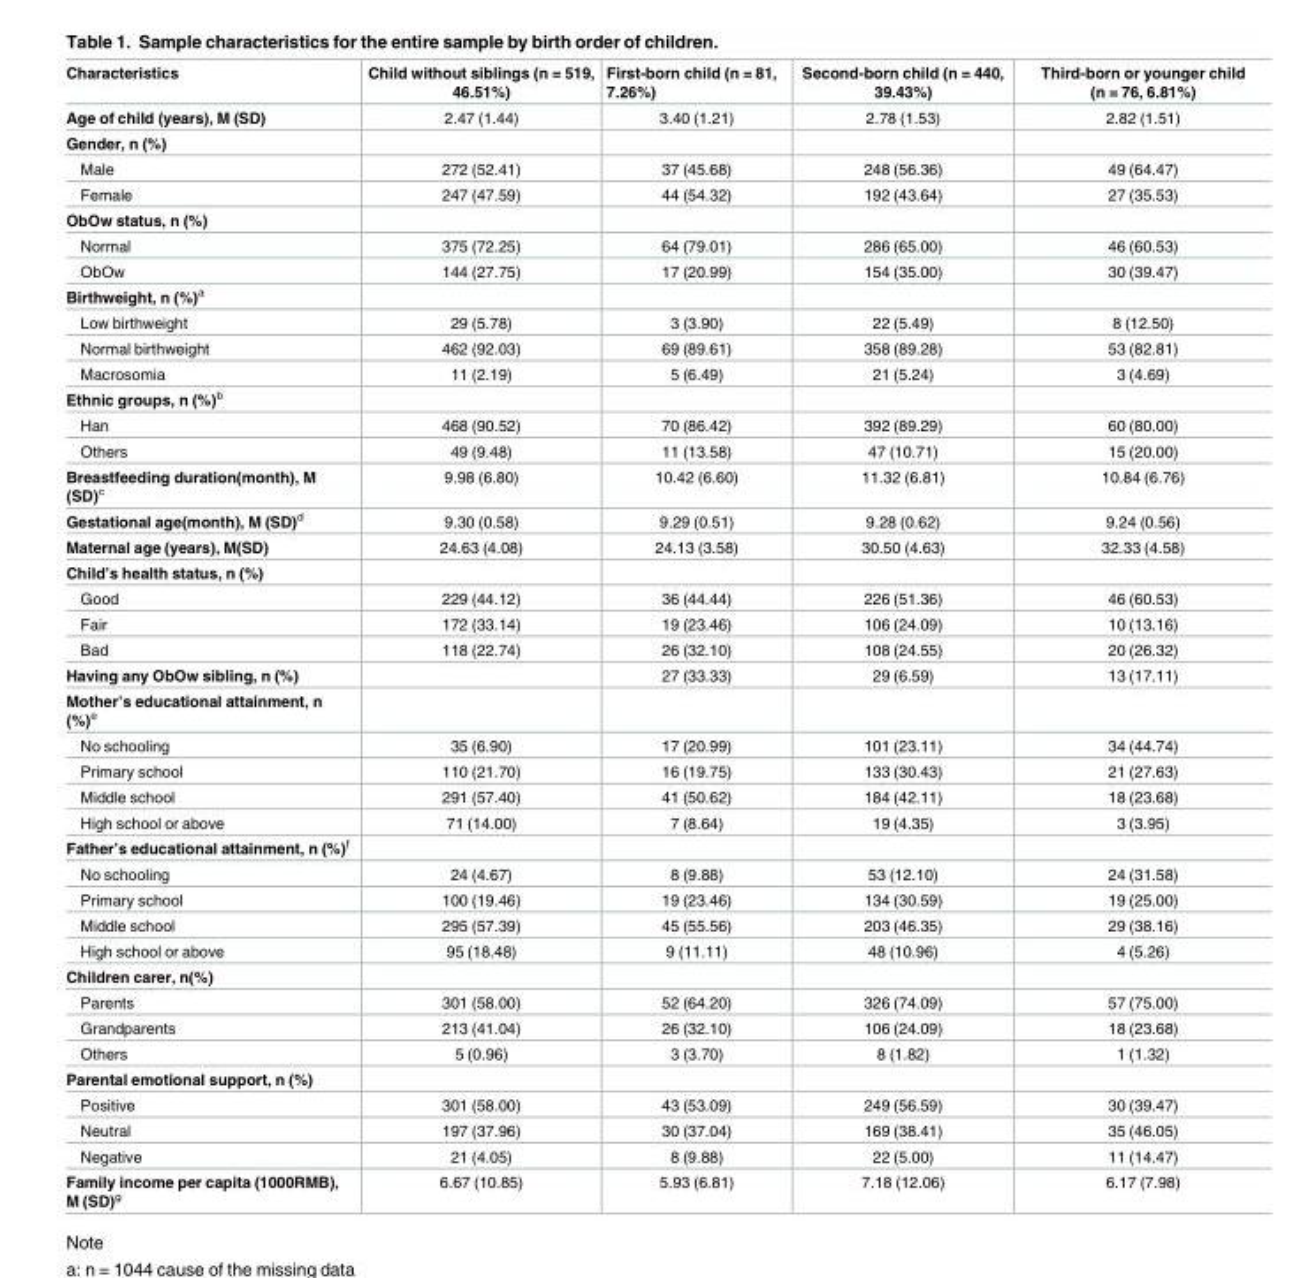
<table><thead><tr><td>Characteristics</td><td>Child without siblings (n = 519, 46.51%)</td><td>First-born child (n = 81, 7.26%)</td><td>Second-born child (n = 440, 39.43%)</td><td>Third-born or younger child (n = 76, 6.81%)</td></tr></thead><tbody><tr><td>Age of child (years), M (SD)</td><td>2.47 (1.44)</td><td>3.40 (1.21)</td><td>2.78 (1.53)</td><td>2.82 (1.51)</td></tr><tr><td colspan="5">Gender, n (%)</td></tr><tr><td>Male</td><td>272 (52.41)</td><td>37 (45.68)</td><td>248 (56.36)</td><td>49 (64.47)</td></tr><tr><td>Female</td><td>247 (47.59)</td><td>44 (54.32)</td><td>192 (43.64)</td><td>27 (35.53)</td></tr><tr><td colspan="5">ObOw status, n (%)</td></tr><tr><td>Normal</td><td>375 (72.25)</td><td>64 (79.01)</td><td>286 (65.00)</td><td>46 (60.53)</td></tr><tr><td>ObOw</td><td>144 (27.75)</td><td>17 (20.99)</td><td>154 (35.00)</td><td>30 (39.47)</td></tr><tr><td colspan="5">Birthweight, n (%)<sup>a</sup></td></tr><tr><td>Low birthweight</td><td>29 (5.78)</td><td>3 (3.90)</td><td>22 (5.49)</td><td>8 (12.50)</td></tr><tr><td>Normal birthweight</td><td>462 (92.03)</td><td>69 (89.61)</td><td>358 (89.28)</td><td>53 (82.81)</td></tr><tr><td>Macrosomia</td><td>11 (2.19)</td><td>5 (6.49)</td><td>21 (5.24)</td><td>3 (4.69)</td></tr><tr><td colspan="5">Ethnic groups, n (%)<sup>b</sup></td></tr><tr><td>Han</td><td>468 (90.52)</td><td>70 (86.42)</td><td>392 (89.29)</td><td>60 (80.00)</td></tr><tr><td>Others</td><td>49 (9.48)</td><td>11 (13.58)</td><td>47 (10.71)</td><td>15 (20.00)</td></tr><tr><td>Breastfeeding duration(month), M (SD)<sup>c</sup></td><td>9.98 (6.80)</td><td>10.42 (6.60)</td><td>11.32 (6.81)</td><td>10.84 (6.76)</td></tr><tr><td>Gestational age(month), M (SD)<sup>d</sup></td><td>9.30 (0.58)</td><td>9.29 (0.51)</td><td>9.28 (0.62)</td><td>9.24 (0.56)</td></tr><tr><td>Maternal age (years), M(SD)</td><td>24.63 (4.08)</td><td>24.13 (3.58)</td><td>30.50 (4.63)</td><td>32.33 (4.58)</td></tr><tr><td colspan="5">Child’s health status, n (%)</td></tr><tr><td>Good</td><td>229 (44.12)</td><td>36 (44.44)</td><td>226 (51.36)</td><td>46 (60.53)</td></tr><tr><td>Fair</td><td>172 (33.14)</td><td>19 (23.46)</td><td>106 (24.09)</td><td>10 (13.16)</td></tr><tr><td>Bad</td><td>118 (22.74)</td><td>26 (32.10)</td><td>108 (24.55)</td><td>20 (26.32)</td></tr><tr><td>Having any ObOw sibling, n (%)</td><td></td><td>27 (33.33)</td><td>29 (6.59)</td><td>13 (17.11)</td></tr><tr><td colspan="5">Mother’s educational attainment, n (%)<sup>e</sup></td></tr><tr><td>No schooling</td><td>35 (6.90)</td><td>17 (20.99)</td><td>101 (23.11)</td><td>34 (44.74)</td></tr><tr><td>Primary school</td><td>110 (21.70)</td><td>16 (19.75)</td><td>133 (30.43)</td><td>21 (27.63)</td></tr><tr><td>Middle school</td><td>291 (57.40)</td><td>41 (50.62)</td><td>184 (42.11)</td><td>18 (23.68)</td></tr><tr><td>High school or above</td><td>71 (14.00)</td><td>7 (8.64)</td><td>19 (4.35)</td><td>3 (3.95)</td></tr><tr><td colspan="5">Father’s educational attainment, n (%)<sup>f</sup></td></tr><tr><td>No schooling</td><td>24 (4.67)</td><td>8 (9.88)</td><td>53 (12.10)</td><td>24 (31.58)</td></tr><tr><td>Primary school</td><td>100 (19.46)</td><td>19 (23.46)</td><td>134 (30.59)</td><td>19 (25.00)</td></tr><tr><td>Middle school</td><td>295 (57.39)</td><td>45 (55.56)</td><td>203 (46.35)</td><td>29 (38.16)</td></tr><tr><td>High school or above</td><td>95 (18.48)</td><td>9 (11.11)</td><td>48 (10.96)</td><td>4 (5.26)</td></tr><tr><td colspan="5">Children carer, n(%)</td></tr><tr><td>Parents</td><td>301 (58.00)</td><td>52 (64.20)</td><td>326 (74.09)</td><td>57 (75.00)</td></tr><tr><td>Grandparents</td><td>213 (41.04)</td><td>26 (32.10)</td><td>106 (24.09)</td><td>18 (23.68)</td></tr><tr><td>Others</td><td>5 (0.96)</td><td>3 (3.70)</td><td>8 (1.82)</td><td>1 (1.32)</td></tr><tr><td colspan="5">Parental emotional support, n (%)</td></tr><tr><td>Positive</td><td>301 (58.00)</td><td>43 (53.09)</td><td>249 (56.59)</td><td>30 (39.47)</td></tr><tr><td>Neutral</td><td>197 (37.96)</td><td>30 (37.04)</td><td>169 (38.41)</td><td>35 (46.05)</td></tr><tr><td>Negative</td><td>21 (4.05)</td><td>8 (9.88)</td><td>22 (5.00)</td><td>11 (14.47)</td></tr><tr><td>Family income per capita (1000RMB), M (SD)<sup>g</sup></td><td>6.67 (10.85)</td><td>5.93 (6.81)</td><td>7.18 (12.06)</td><td>6.17 (7.98)</td></tr></tbody></table>